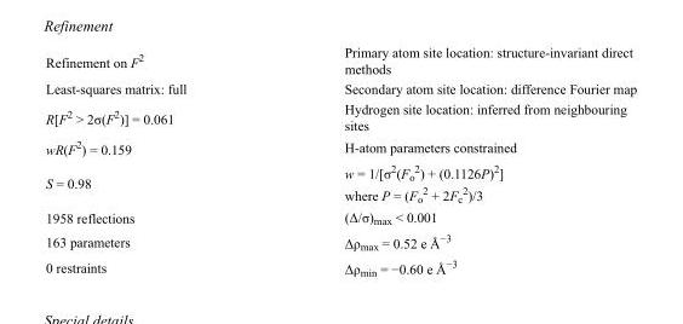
<table><tbody><tr><td>Refinement on F<sup>2</sup></td><td>Primary atom site location: structure-invariant direct methods</td></tr><tr><td>Least-squares matrix: full</td><td>Secondary atom site location: difference Fourier map</td></tr><tr><td>R[F<sup>2</sup> &gt; 2σ(F<sup>2</sup>)] = 0.061</td><td>Hydrogen site location: inferred from neighbouring sites</td></tr><tr><td>wR(F<sup>2</sup>) = 0.159</td><td>H-atom parameters constrained</td></tr><tr><td>S = 0.98</td><td>w = 1/[σ<sup>2</sup>(F<sub>o</sub> <sup>2</sup>) + (0.1126P)<sup>2</sup>] where P = (F<sub>o</sub> <sup>2</sup> + 2F<sub>c</sub> <sup>2</sup>)/3</td></tr><tr><td>1958 reflections</td><td>(Δ/σ)<sub>max</sub> &lt; 0.001</td></tr><tr><td>163 parameters</td><td>Δρ<sub>max</sub> = 0.52 e Å<sup>−3</sup></td></tr><tr><td>0 restraints</td><td>Δρ<sub>min</sub> = −0.60 e Å<sup>−3</sup></td></tr></tbody></table>